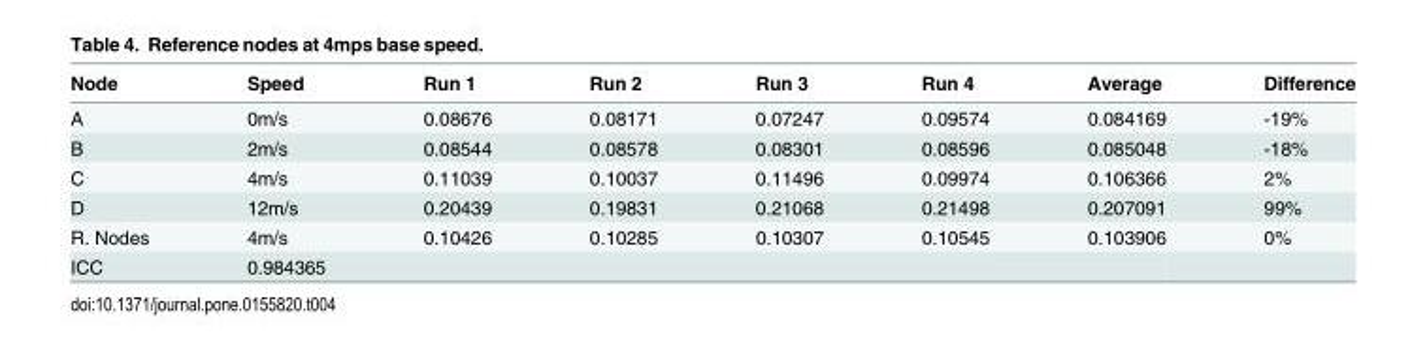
<table><thead><tr><td>Node</td><td>Speed</td><td>Run 1</td><td>Run 2</td><td>Run 3</td><td>Run 4</td><td>Average</td><td>Difference</td></tr></thead><tbody><tr><td>A</td><td>0m/s</td><td>0.08676</td><td>0.08171</td><td>0.07247</td><td>0.09574</td><td>0.084169</td><td>-19%</td></tr><tr><td>B</td><td>2m/s</td><td>0.08544</td><td>0.08578</td><td>0.08301</td><td>0.08596</td><td>0.085048</td><td>-18%</td></tr><tr><td>C</td><td>4m/s</td><td>0.11039</td><td>0.10037</td><td>0.11496</td><td>0.09974</td><td>0.106366</td><td>2%</td></tr><tr><td>D</td><td>12m/s</td><td>0.20439</td><td>0.19831</td><td>0.21068</td><td>0.21498</td><td>0.207091</td><td>99%</td></tr><tr><td>R. Nodes</td><td>4m/s</td><td>0.10426</td><td>0.10285</td><td>0.10307</td><td>0.10545</td><td>0.103906</td><td>0%</td></tr><tr><td>ICC</td><td>0.984365</td><td></td><td></td><td></td><td></td><td></td><td></td></tr></tbody></table>